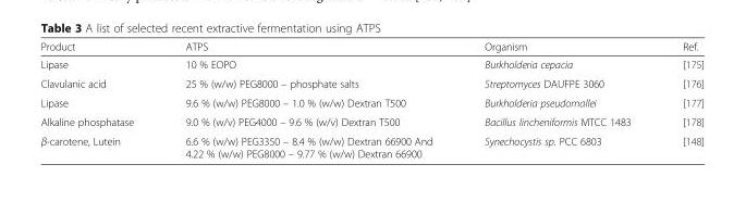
<table><thead><tr><td>Product</td><td>ATPS</td><td>Organism</td><td>Ref.</td></tr></thead><tbody><tr><td>Lipase</td><td>10 % EOPO</td><td>Burkholderia cepacia</td><td>[175]</td></tr><tr><td>Clavulanic acid</td><td>25 % (w/w) PEG8000 – phosphate salts</td><td>Streptomyces DAUFPE 3060</td><td>[176]</td></tr><tr><td>Lipase</td><td>9.6 % (w/w) PEG8000 – 1.0 % (w/w) Dextran T500</td><td>Burkholderia pseudomallei</td><td>[177]</td></tr><tr><td>Alkaline phosphatase</td><td>9.0 % (w/v) PEG4000 – 9.6 % (w/v) Dextran T500</td><td>Bacillus lincheniformis MTCC 1483</td><td>[178]</td></tr><tr><td>β-carotene, Lutein</td><td>6.6 % (w/w) PEG3350 – 8.4 % (w/w) Dextran 66900 And 4.22 % (w/w) PEG8000 – 9.77 % (w/w) Dextran 66900</td><td>Synechocystis sp. PCC 6803</td><td>[148]</td></tr></tbody></table>